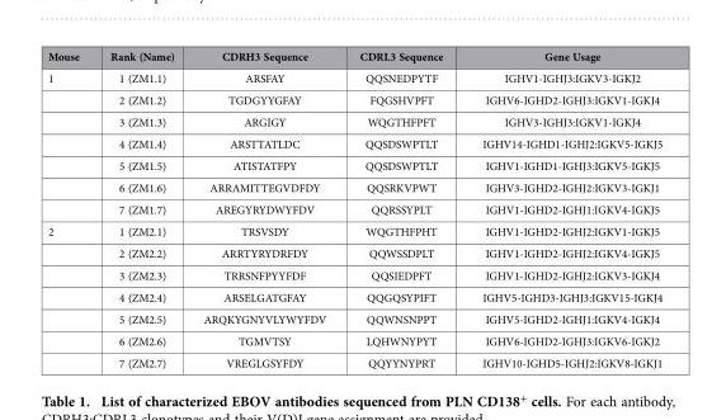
<table><thead><tr><td>Mouse</td><td>Rank (Name)</td><td>CDRH3 Sequence</td><td>CDRL3 Sequence</td><td>Gene Usage</td></tr></thead><tbody><tr><td rowspan="7">1</td><td>1 (ZM1.1)</td><td>ARSFAY</td><td>QQSNEDPYTF</td><td>IGHV1-IGHJ3:IGKV3-IGKJ2</td></tr><tr><td>2 (ZM1.2)</td><td>TGDGYYGFAY</td><td>FQGSHVPFT</td><td>IGHV6-IGHD2-IGHJ3:IGKV1-IGKJ4</td></tr><tr><td>3 (ZM1.3)</td><td>ARGIGY</td><td>WQGTHFPFT</td><td>IGHV3-IGHJ3:IGKV1-IGKJ4</td></tr><tr><td>4 (ZM1.4)</td><td>ARSTTATLDC</td><td>QQSDSWPTLT</td><td>IGHV14-IGHD1-IGHJ2:IGKV5-IGKJ5</td></tr><tr><td>5 (ZM1.5)</td><td>ATISTATFPY</td><td>QQSDSWPTLT</td><td>IGHV1-IGHD1-IGHJ3:IGKV5-IGKJ5</td></tr><tr><td>6 (ZM1.6)</td><td>ARRAMITTEGVDFDY</td><td>QQSRKVPWT</td><td>IGHV3-IGHD2-IGHJ2:IGKV3-IGKJ1</td></tr><tr><td>7 (ZM1.7)</td><td>AREGYRYDWYFDV</td><td>QQRSSYPLT</td><td>IGHV1-IGHD2-IGHJ1:IGKV4-IGKJ5</td></tr><tr><td rowspan="7">2</td><td>1 (ZM2.1)</td><td>TRSVSDY</td><td>WQGTHFPHT</td><td>IGHV1-IGHD2-IGHJ2:IGKV1-IGKJ5</td></tr><tr><td>2 (ZM2.2)</td><td>ARRTYRYDRFDY</td><td>QQWSSDPLT</td><td>IGHV1-IGHD2-IGHJ2:IGKV4-IGKJ5</td></tr><tr><td>3 (ZM2.3)</td><td>TRRSNFPYYFDF</td><td>QQSIEDPFT</td><td>IGHV1-IGHD2-IGHJ2:IGKV3-IGKJ4</td></tr><tr><td>4 (ZM2.4)</td><td>ARSELGATGFAY</td><td>QQGQSYPIFT</td><td>IGHV5-IGHD3-IGHJ3:IGKV15-IGKJ4</td></tr><tr><td>5 (ZM2.5)</td><td>ARQKYGNYVLYWYFDV</td><td>QQWNSNPPT</td><td>IGHV5-IGHD2-IGHJ1:IGKV4-IGKJ4</td></tr><tr><td>6 (ZM2.6)</td><td>TGMVTSY</td><td>LQHWNYPYT</td><td>IGHV6-IGHD2-IGHJ3:IGKV6-IGKJ2</td></tr><tr><td>7 (ZM2.7)</td><td>VREGLGSYFDY</td><td>QQYYNYPRT</td><td>IGHV10-IGHD5-IGHJ2:IGKV8-IGKJ1</td></tr></tbody></table>